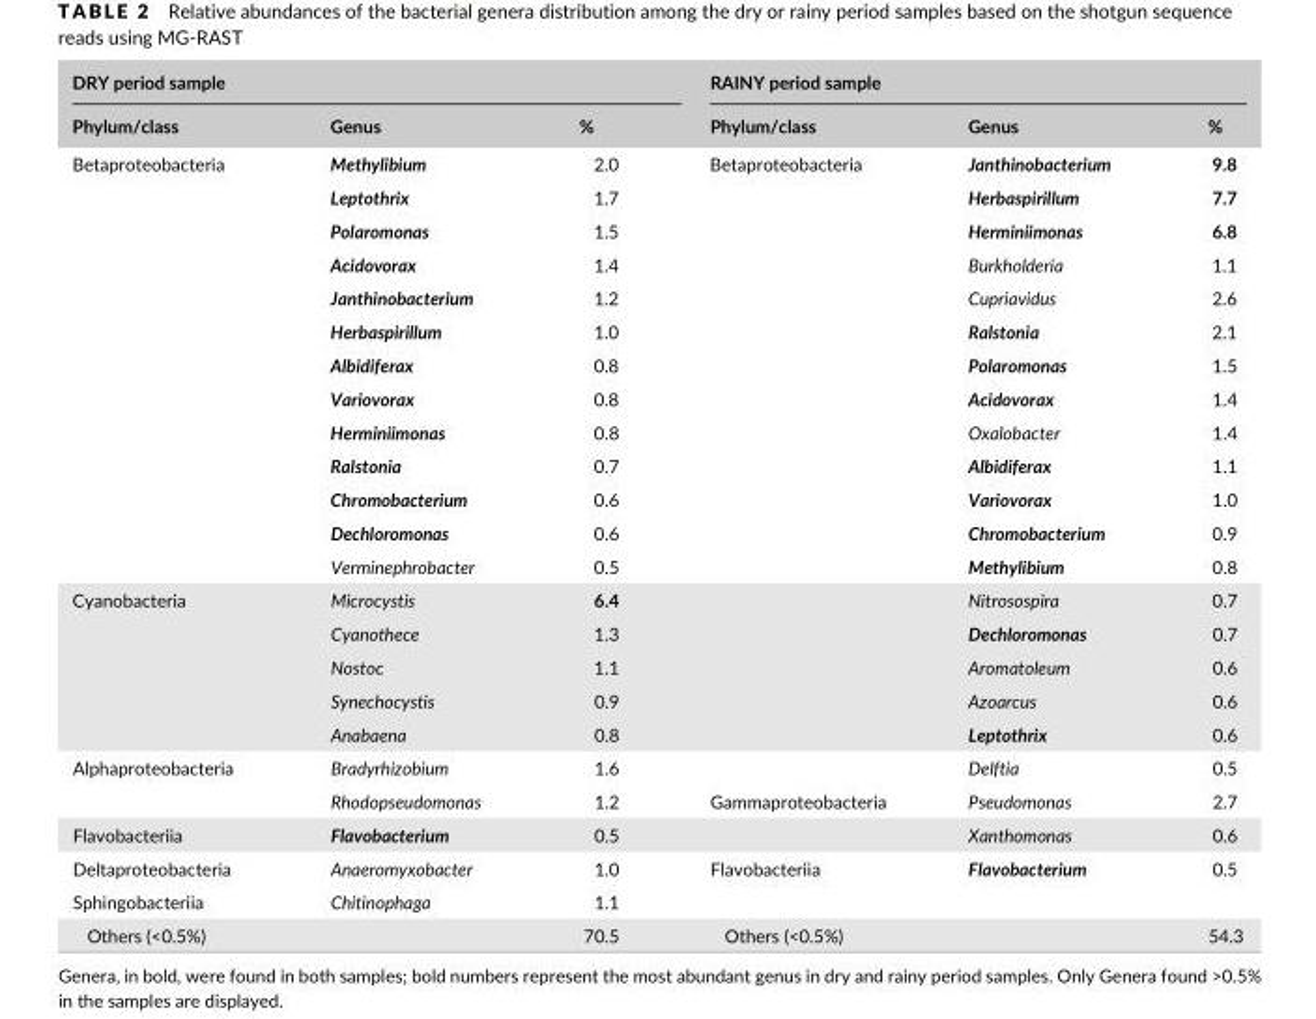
<table><thead><tr><td colspan="3">DRY period sample</td><td colspan="3">RAINY period sample</td></tr><tr><td>Phylum/class</td><td>Genus</td><td>%</td><td>Phylum/class</td><td>Genus</td><td>%</td></tr></thead><tbody><tr><td rowspan="13">Betaproteobacteria</td><td>Methylibium</td><td>2.0</td><td>Betaproteobacteria</td><td>Janthinobacterium</td><td>9.8</td></tr><tr><td>Leptothrix</td><td>1.7</td><td></td><td>Herbaspirillum</td><td>7.7</td></tr><tr><td>Polaromonas</td><td>1.5</td><td></td><td>Herminiimonas</td><td>6.8</td></tr><tr><td>Acidovorax</td><td>1.4</td><td></td><td>Burkholderia</td><td>1.1</td></tr><tr><td>Janthinobacterium</td><td>1.2</td><td></td><td>Cupriavidus</td><td>2.6</td></tr><tr><td>Herbaspirillum</td><td>1.0</td><td></td><td>Ralstonia</td><td>2.1</td></tr><tr><td>Albidiferax</td><td>0.8</td><td></td><td>Polaromonas</td><td>1.5</td></tr><tr><td>Variovorax</td><td>0.8</td><td></td><td>Acidovorax</td><td>1.4</td></tr><tr><td>Herminiimonas</td><td>0.8</td><td></td><td>Oxalobacter</td><td>1.4</td></tr><tr><td>Ralstonia</td><td>0.7</td><td></td><td>Albidiferax</td><td>1.1</td></tr><tr><td>Chromobacterium</td><td>0.6</td><td></td><td>Variovorax</td><td>1.0</td></tr><tr><td>Dechloromonas</td><td>0.6</td><td></td><td>Chromobacterium</td><td>0.9</td></tr><tr><td>Verminephrobacter</td><td>0.5</td><td></td><td>Methylibium</td><td>0.8</td></tr><tr><td rowspan="5">Cyanobacteria</td><td>Microcystis</td><td>6.4</td><td></td><td>Nitrosospira</td><td>0.7</td></tr><tr><td>Cyanothece</td><td>1.3</td><td></td><td>Dechloromonas</td><td>0.7</td></tr><tr><td>Nostoc</td><td>1.1</td><td></td><td>Aromatoleum</td><td>0.6</td></tr><tr><td>Synechocystis</td><td>0.9</td><td></td><td>Azoarcus</td><td>0.6</td></tr><tr><td>Anabaena</td><td>0.8</td><td></td><td>Leptothrix</td><td>0.6</td></tr><tr><td rowspan="2">Alphaproteobacteria</td><td>Bradyrhizobium</td><td>1.6</td><td></td><td>Delftia</td><td>0.5</td></tr><tr><td>Rhodopseudomonas</td><td>1.2</td><td>Gammaproteobacteria</td><td>Pseudomonas</td><td>2.7</td></tr><tr><td>Flavobacteriia</td><td>Flavobacterium</td><td>0.5</td><td></td><td>Xanthomonas</td><td>0.6</td></tr><tr><td>Deltaproteobacteria</td><td>Anaeromyxobacter</td><td>1.0</td><td>Flavobacteriia</td><td>Flavobacterium</td><td>0.5</td></tr><tr><td>Sphingobacteriia</td><td>Chitinophaga</td><td>1.1</td><td></td><td></td><td></td></tr><tr><td>Others (&lt;0.5%)</td><td></td><td>70.5</td><td>Others (&lt;0.5%)</td><td></td><td>54.3</td></tr></tbody></table>